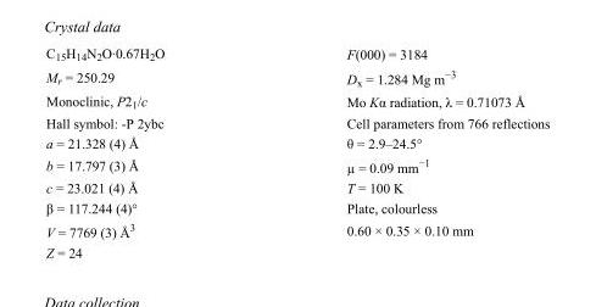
<table><tbody><tr><td>C<sub>15</sub>H<sub>14</sub>N<sub>2</sub>O·0.67H<sub>2</sub>O</td><td>F(000) = 3184</td></tr><tr><td>M<sub>r</sub> = 250.29</td><td>D<sub>x</sub> = 1.284 Mg m<sup>−3</sup></td></tr><tr><td>Monoclinic, P2<sub>1</sub>/c</td><td>Mo Kα radiation, λ = 0.71073 Å</td></tr><tr><td>Hall symbol: -P 2ybc</td><td>Cell parameters from 766 reflections</td></tr><tr><td>a = 21.328 (4) Å</td><td>θ = 2.9–24.5°</td></tr><tr><td>b = 17.797 (3) Å</td><td>µ = 0.09 mm<sup>−1</sup></td></tr><tr><td>c = 23.021 (4) Å</td><td>T = 100 K</td></tr><tr><td>β = 117.244 (4)°</td><td>Plate, colourless</td></tr><tr><td>V = 7769 (3) Å<sup>3</sup></td><td>0.60 × 0.35 × 0.10 mm</td></tr><tr><td>Z = 24</td><td></td></tr></tbody></table>